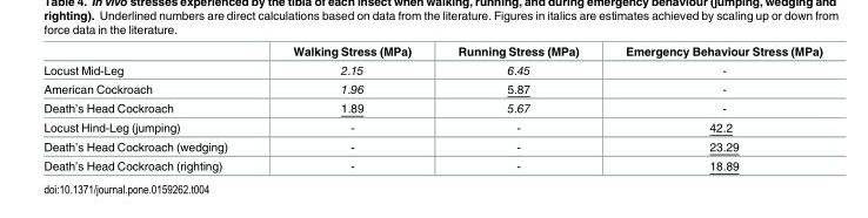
<table><thead><tr><td></td><td>Walking Stress (MPa)</td><td>Running Stress (MPa)</td><td>Emergency Behaviour Stress (MPa)</td></tr></thead><tbody><tr><td>Locust Mid-Leg</td><td>2.15</td><td>6.45</td><td>-</td></tr><tr><td>American Cockroach</td><td>1.96</td><td>5.87</td><td>-</td></tr><tr><td>Death’s Head Cockroach</td><td>1.89</td><td>5.67</td><td>-</td></tr><tr><td>Locust Hind-Leg (jumping)</td><td>-</td><td>-</td><td>42.2</td></tr><tr><td>Death’s Head Cockroach (wedging)</td><td>-</td><td>-</td><td>23.29</td></tr><tr><td>Death’s Head Cockroach (righting)</td><td>-</td><td>-</td><td>18.89</td></tr></tbody></table>